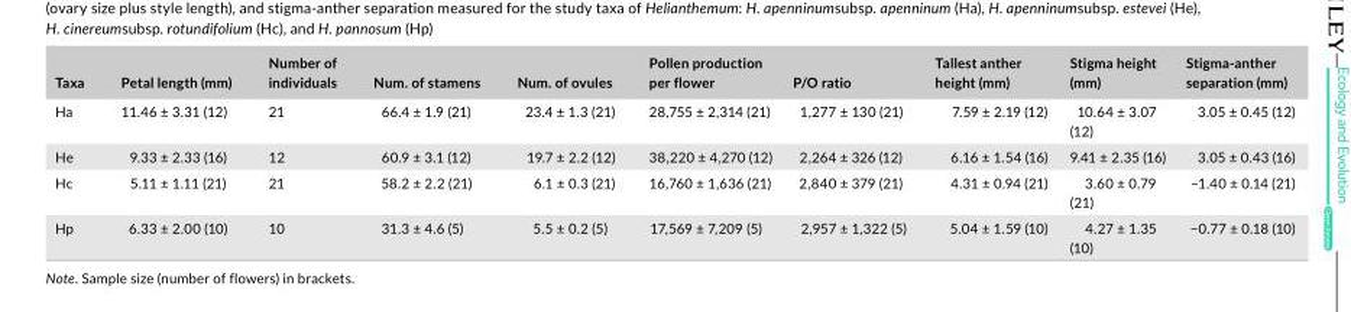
<table><thead><tr><td>Taxa</td><td>Petal length (mm)</td><td>Number of individuals</td><td>Num. of stamens</td><td>Num. of ovules</td><td>Pollen production per flower</td><td>P/O ratio</td><td>Tallest anther height (mm)</td><td>Stigma height (mm)</td><td>Stigma- anther separation (mm)</td></tr></thead><tbody><tr><td>Ha</td><td>11.46 ± 3.31 (12)</td><td>21</td><td>66.4 ± 1.9 (21)</td><td>23.4 ± 1.3 (21)</td><td>28,755 ± 2,314 (21)</td><td>1,277 ± 130 (21)</td><td>7.59 ± 2.19 (12)</td><td>10.64 ± 3.07 (12)</td><td>3.05 ± 0.45 (12)</td></tr><tr><td>He</td><td>9.33 ± 2.33 (16)</td><td>12</td><td>60.9 ± 3.1 (12)</td><td>19.7 ± 2.2 (12)</td><td>38,220 ± 4,270 (12)</td><td>2,264 ± 326 (12)</td><td>6.16 ± 1.54 (16)</td><td>9.41 ± 2.35 (16)</td><td>3.05 ± 0.43 (16)</td></tr><tr><td>Hc</td><td>5.11 ± 1.11 (21)</td><td>21</td><td>58.2 ± 2.2 (21)</td><td>6.1 ± 0.3 (21)</td><td>16,760 ± 1,636 (21)</td><td>2,840 ± 379 (21)</td><td>4.31 ± 0.94 (21)</td><td>3.60 ± 0.79 (21)</td><td>−1.40 ± 0.14 (21)</td></tr><tr><td>Hp</td><td>6.33 ± 2.00 (10)</td><td>10</td><td>31.3 ± 4.6 (5)</td><td>5.5 ± 0.2 (5)</td><td>17,569 ± 7,209 (5)</td><td>2,957 ± 1,322 (5)</td><td>5.04 ± 1.59 (10)</td><td>4.27 ± 1.35 (10)</td><td>−0.77 ± 0.18 (10)</td></tr></tbody></table>